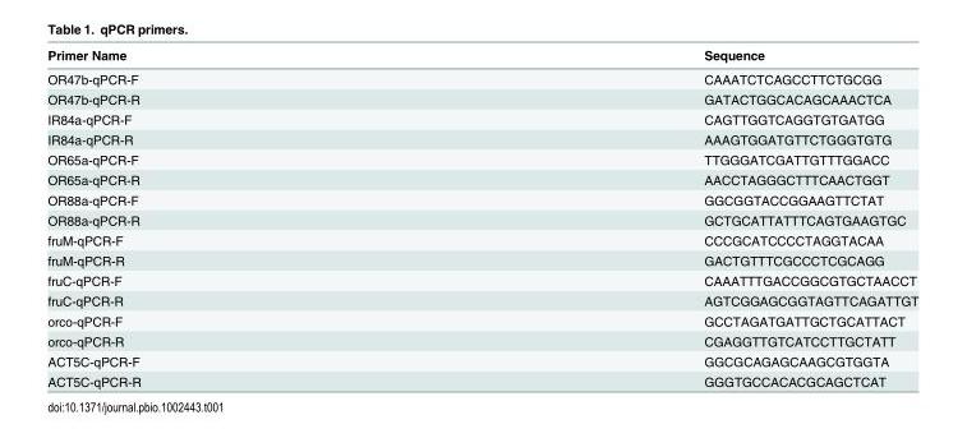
<table><thead><tr><td>Primer Name</td><td>Sequence</td></tr></thead><tbody><tr><td>OR47b-qPCR-F</td><td>CAAATCTCAGCCTTCTGCGG</td></tr><tr><td>OR47b-qPCR-R</td><td>GATACTGGCACAGCAAACTCA</td></tr><tr><td>IR84a-qPCR-F</td><td>CAGTTGGTCAGGTGTGATGG</td></tr><tr><td>IR84a-qPCR-R</td><td>AAAGTGGATGTTCTGGGTGTG</td></tr><tr><td>OR65a-qPCR-F</td><td>TTGGGATCGATTGTTTGGACC</td></tr><tr><td>OR65a-qPCR-R</td><td>AACCTAGGGCTTTCAACTGGT</td></tr><tr><td>OR88a-qPCR-F</td><td>GGCGGTACCGGAAGTTCTAT</td></tr><tr><td>OR88a-qPCR-R</td><td>GCTGCATTATTTCAGTGAAGTGC</td></tr><tr><td>fruM-qPCR-F</td><td>CCCGCATCCCCTAGGTACAA</td></tr><tr><td>fruM-qPCR-R</td><td>GACTGTTTCGCCCTCGCAGG</td></tr><tr><td>fruC-qPCR-F</td><td>CAAATTTGACCGGCGTGCTAACCT</td></tr><tr><td>fruC-qPCR-R</td><td>AGTCGGAGCGGTAGTTCAGATTGT</td></tr><tr><td>orco-qPCR-F</td><td>GCCTAGATGATTGCTGCATTACT</td></tr><tr><td>orco-qPCR-R</td><td>CGAGGTTGTCATCCTTGCTATT</td></tr><tr><td>ACT5C-qPCR-F</td><td>GGCGCAGAGCAAGCGTGGTA</td></tr><tr><td>ACT5C-qPCR-R</td><td>GGGTGCCACACGCAGCTCAT</td></tr></tbody></table>